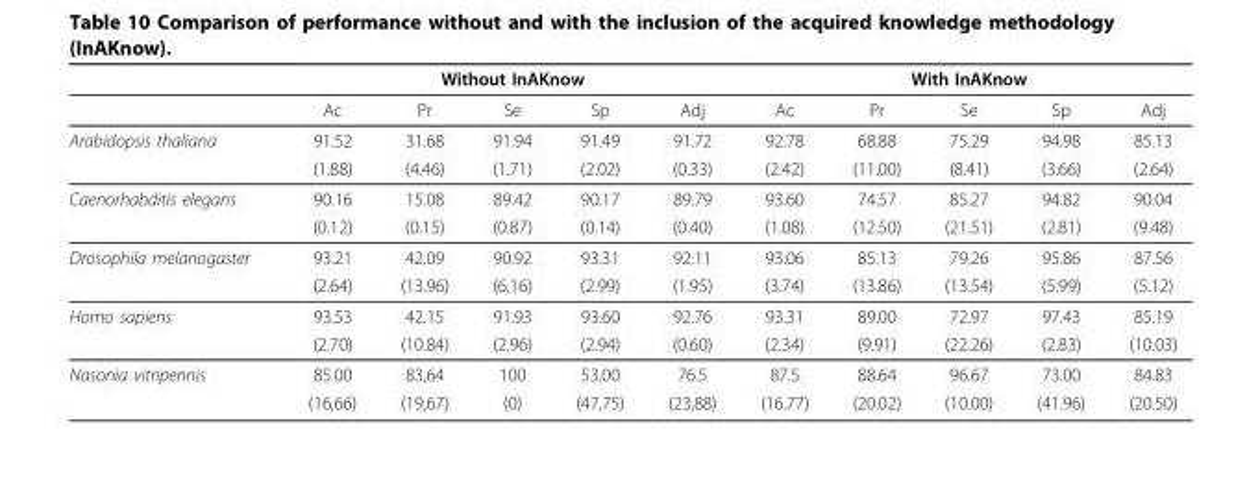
<table><thead><tr><td rowspan="2"></td><td colspan="5">Without InAKnow</td><td colspan="5">With InAKnow</td></tr><tr><td>Ac</td><td>Pr</td><td>Se</td><td>Sp</td><td>Adj</td><td>Ac</td><td>Pr</td><td>Se</td><td>Sp</td><td>Adj</td></tr></thead><tbody><tr><td rowspan="2">Arabidopsis thaliana</td><td>91.52</td><td>31.68</td><td>91.94</td><td>91.49</td><td>91.72</td><td>92.78</td><td>68.88</td><td>75.29</td><td>94.98</td><td>85.13</td></tr><tr><td>(1.88)</td><td>(4.46)</td><td>(1.71)</td><td>(2.02)</td><td>(0.33)</td><td>(2.42)</td><td>(11.00)</td><td>(8.41)</td><td>(3.66)</td><td>(2.64)</td></tr><tr><td rowspan="2">Caenorhabditis elegans</td><td>90.16</td><td>15.08</td><td>89.42</td><td>90.17</td><td>89.79</td><td>93.60</td><td>74.57</td><td>85.27</td><td>94.82</td><td>90.04</td></tr><tr><td>(0.12)</td><td>(0.15)</td><td>(0.87)</td><td>(0.14)</td><td>(0.40)</td><td>(1.08)</td><td>(12.50)</td><td>(21.51)</td><td>(2.81)</td><td>(9.48)</td></tr><tr><td rowspan="2">Drosophila melanogaster</td><td>93.21</td><td>42.09</td><td>90.92</td><td>93.31</td><td>92.11</td><td>93.06</td><td>85.13</td><td>79.26</td><td>95.86</td><td>87.56</td></tr><tr><td>(2.64)</td><td>(13.96)</td><td>(6.16)</td><td>(2.99)</td><td>(1.95)</td><td>(3.74)</td><td>(13.86)</td><td>(13.54)</td><td>(5.99)</td><td>(5.12)</td></tr><tr><td rowspan="2">Homo sapiens</td><td>93.53</td><td>42.15</td><td>91.93</td><td>93.60</td><td>92.76</td><td>93.31</td><td>89.00</td><td>72.97</td><td>97.43</td><td>85.19</td></tr><tr><td>(2.70)</td><td>(10.84)</td><td>(2.96)</td><td>(2.94)</td><td>(0.60)</td><td>(2.34)</td><td>(9.91)</td><td>(22.26)</td><td>(2.83)</td><td>(10.03)</td></tr><tr><td rowspan="2">Nasonia vitripennis</td><td>85.00</td><td>83,64</td><td>100</td><td>53.00</td><td>76.5</td><td>87.5</td><td>88.64</td><td>96.67</td><td>73.00</td><td>84.83</td></tr><tr><td>(16,66)</td><td>(19,67)</td><td>(0)</td><td>(47,75)</td><td>(23,88)</td><td>(16.77)</td><td>(20.02)</td><td>(10.00)</td><td>(41.96)</td><td>(20.50)</td></tr></tbody></table>